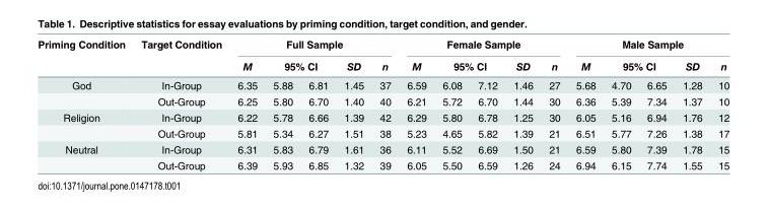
<table><thead><tr><td rowspan="3">Priming Condition God</td><td rowspan="3">Target Condition In-Group</td><td colspan="5">Full Sample</td><td colspan="5">Female Sample</td><td colspan="5">Male Sample</td></tr><tr><td rowspan="2">M 6.35</td><td colspan="2">95% CI</td><td rowspan="2">SD 1.45</td><td rowspan="2">n 37</td><td rowspan="2">M 6.59</td><td colspan="2">95% CI</td><td rowspan="2">SD 1.46</td><td rowspan="2">n 27</td><td rowspan="2">M 5.68</td><td colspan="2">95% CI</td><td rowspan="2">SD 1.28</td><td rowspan="2">n 10</td></tr><tr><td>5.88</td><td>6.81</td><td>6.08</td><td>7.12</td><td>4.70</td><td>6.65</td></tr></thead><tbody><tr><td></td><td>Out-Group</td><td>6.25</td><td>5.80</td><td>6.70</td><td>1.40</td><td>40</td><td>6.21</td><td>5.72</td><td>6.70</td><td>1.44</td><td>30</td><td>6.36</td><td>5.39</td><td>7.34</td><td>1.37</td><td>10</td></tr><tr><td rowspan="2">Religion</td><td>In-Group</td><td>6.22</td><td>5.78</td><td>6.66</td><td>1.39</td><td>42</td><td>6.29</td><td>5.80</td><td>6.78</td><td>1.25</td><td>30</td><td>6.05</td><td>5.16</td><td>6.94</td><td>1.76</td><td>12</td></tr><tr><td>Out-Group</td><td>5.81</td><td>5.34</td><td>6.27</td><td>1.51</td><td>38</td><td>5.23</td><td>4.65</td><td>5.82</td><td>1.39</td><td>21</td><td>6.51</td><td>5.77</td><td>7.26</td><td>1.38</td><td>17</td></tr><tr><td rowspan="2">Neutral</td><td>In-Group</td><td>6.31</td><td>5.83</td><td>6.79</td><td>1.61</td><td>36</td><td>6.11</td><td>5.52</td><td>6.69</td><td>1.50</td><td>21</td><td>6.59</td><td>5.80</td><td>7.39</td><td>1.78</td><td>15</td></tr><tr><td>Out-Group</td><td>6.39</td><td>5.93</td><td>6.85</td><td>1.32</td><td>39</td><td>6.05</td><td>5.50</td><td>6.59</td><td>1.26</td><td>24</td><td>6.94</td><td>6.15</td><td>7.74</td><td>1.55</td><td>15</td></tr></tbody></table>